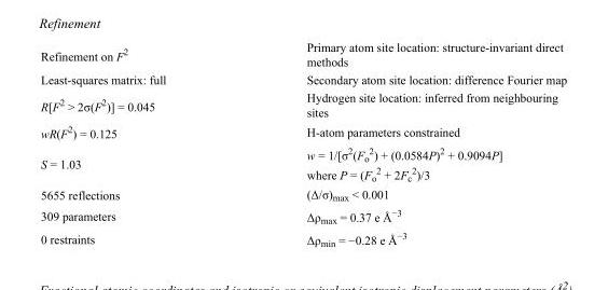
<table><tbody><tr><td>Refinement on F<sup>2</sup></td><td>Primary atom site location: structure-invariant direct methods</td></tr><tr><td>Least-squares matrix: full</td><td>Secondary atom site location: difference Fourier map</td></tr><tr><td>R[F<sup>2</sup> &gt; 2σ(F<sup>2</sup>)] = 0.045</td><td>Hydrogen site location: inferred from neighbouring sites</td></tr><tr><td>wR(F<sup>2</sup>) = 0.125</td><td>H-atom parameters constrained</td></tr><tr><td>S = 1.03</td><td>w = 1/[σ<sup>2</sup>(F<sub>o</sub> <sup>2</sup>) + (0.0584P)<sup>2</sup> + 0.9094P] where P = (F<sub>o</sub> <sup>2</sup> + 2F<sub>c</sub> <sup>2</sup>)/3</td></tr><tr><td>5655 reflections</td><td>(Δ/σ)<sub>max</sub> &lt; 0.001</td></tr><tr><td>309 parameters</td><td>Δρ<sub>max</sub> = 0.37 e Å<sup>−3</sup></td></tr><tr><td>0 restraints</td><td>Δρ<sub>min</sub> = −0.28 e Å<sup>−3</sup></td></tr></tbody></table>